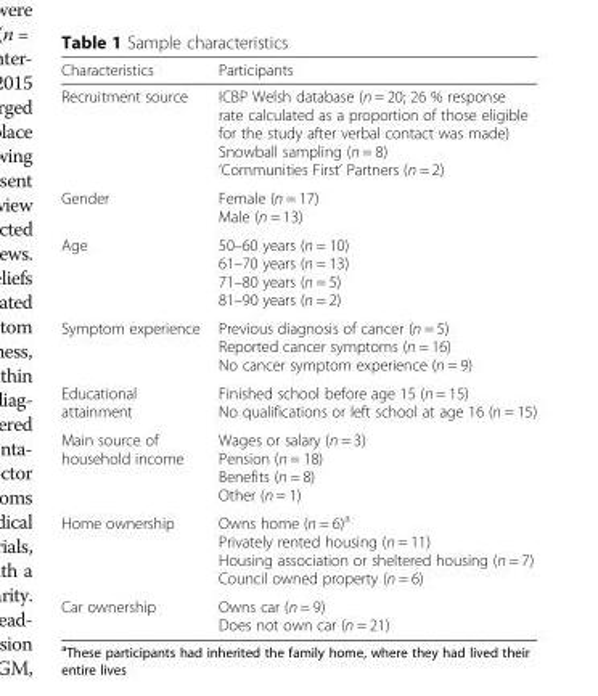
<table><thead><tr><td>Characteristics</td><td>Participants</td></tr></thead><tbody><tr><td>Recruitment source</td><td>ICBP Welsh database (n = 20; 26 % response rate calculated as a proportion of those eligible for the study after verbal contact was made) Snowball sampling (n = 8) ‘Communities First’ Partners (n = 2)</td></tr><tr><td>Gender</td><td>Female (n = 17) Male (n = 13)</td></tr><tr><td>Age</td><td>50–60 years (n = 10) 61–70 years (n = 13) 71–80 years (n = 5) 81–90 years (n = 2)</td></tr><tr><td>Symptom experience</td><td>Previous diagnosis of cancer (n = 5) Reported cancer symptoms (n = 16) No cancer symptom experience (n = 9)</td></tr><tr><td>Educational attainment</td><td>Finished school before age 15 (n = 15) No qualifications or left school at age 16 (n = 15)</td></tr><tr><td>Main source of household income</td><td>Wages or salary (n = 3) Pension (n = 18) Benefits (n = 8) Other (n = 1)</td></tr><tr><td>Home ownership</td><td>Owns home (n = 6)<sup>a</sup> Privately rented housing (n = 11) Housing association or sheltered housing (n = 7) Council owned property (n = 6)</td></tr><tr><td>Car ownership</td><td>Owns car (n = 9) Does not own car (n = 21)</td></tr></tbody></table>